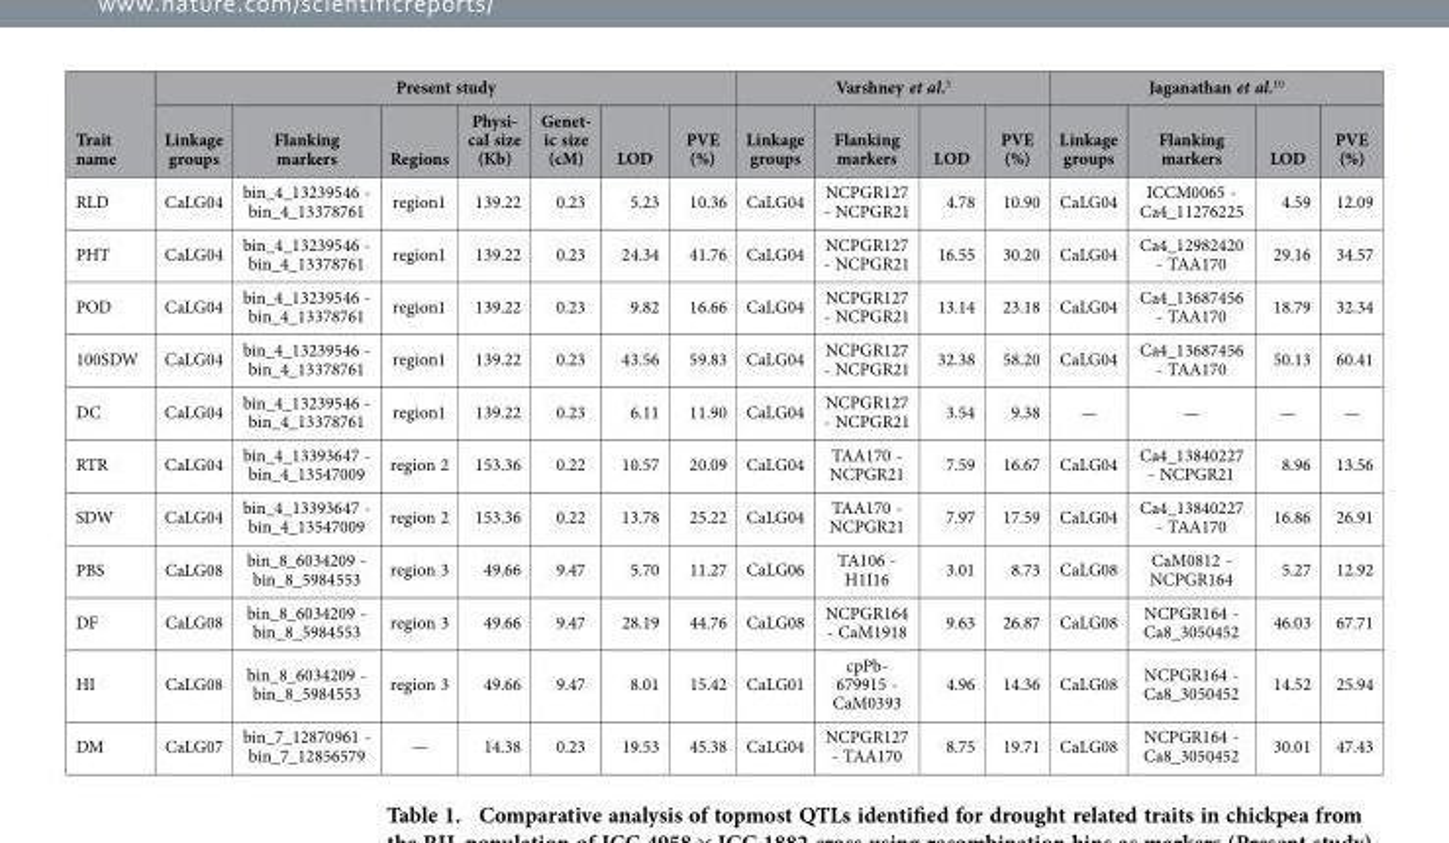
<table><thead><tr><td rowspan="2">Trait name</td><td colspan="7">Present study</td><td colspan="4">Varshney et al.<sup>5</sup></td><td colspan="4">Jaganathan et al.<sup>10</sup></td></tr><tr><td>Linkage groups</td><td>Flanking markers</td><td>Regions</td><td>Physi- cal size (Kb)</td><td>Genet- ic size (cM)</td><td>LOD</td><td>PVE (%)</td><td>Linkage groups</td><td>Flanking markers</td><td>LOD</td><td>PVE (%)</td><td>Linkage groups</td><td>Flanking markers</td><td>LOD</td><td>PVE (%)</td></tr></thead><tbody><tr><td>RLD</td><td>CaLG04</td><td>bin_4_13239546 - bin_4_13378761</td><td>region1</td><td>139.22</td><td>0.23</td><td>5.23</td><td>10.36</td><td>CaLG04</td><td>NCPGR127 - NCPGR21</td><td>4.78</td><td>10.90</td><td>CaLG04</td><td>ICCM0065 - Ca4_11276225</td><td>4.59</td><td>12.09</td></tr><tr><td>PHT</td><td>CaLG04</td><td>bin_4_13239546 - bin_4_13378761</td><td>region1</td><td>139.22</td><td>0.23</td><td>24.34</td><td>41.76</td><td>CaLG04</td><td>NCPGR127 - NCPGR21</td><td>16.55</td><td>30.20</td><td>CaLG04</td><td>Ca4_12982420 - TAA170</td><td>29.16</td><td>34.57</td></tr><tr><td>POD</td><td>CaLG04</td><td>bin_4_13239546 - bin_4_13378761</td><td>region1</td><td>139.22</td><td>0.23</td><td>9.82</td><td>16.66</td><td>CaLG04</td><td>NCPGR127 - NCPGR21</td><td>13.14</td><td>23.18</td><td>CaLG04</td><td>Ca4_13687456 - TAA170</td><td>18.79</td><td>32.34</td></tr><tr><td>100SDW</td><td>CaLG04</td><td>bin_4_13239546 - bin_4_13378761</td><td>region1</td><td>139.22</td><td>0.23</td><td>43.56</td><td>59.83</td><td>CaLG04</td><td>NCPGR127 - NCPGR21</td><td>32.38</td><td>58.20</td><td>CaLG04</td><td>Ca4_13687456 - TAA170</td><td>50.13</td><td>60.41</td></tr><tr><td>DC</td><td>CaLG04</td><td>bin_4_13239546 - bin_4_13378761</td><td>region1</td><td>139.22</td><td>0.23</td><td>6.11</td><td>11.90</td><td>CaLG04</td><td>NCPGR127 - NCPGR21</td><td>3.54</td><td>9.38</td><td>—</td><td>—</td><td>—</td><td>—</td></tr><tr><td>RTR</td><td>CaLG04</td><td>bin_4_13393647 - bin_4_13547009</td><td>region 2</td><td>153.36</td><td>0.22</td><td>10.57</td><td>20.09</td><td>CaLG04</td><td>TAA170 - NCPGR21</td><td>7.59</td><td>16.67</td><td>CaLG04</td><td>Ca4_13840227 - NCPGR21</td><td>8.96</td><td>13.56</td></tr><tr><td>SDW</td><td>CaLG04</td><td>bin_4_13393647 - bin_4_13547009</td><td>region 2</td><td>153.36</td><td>0.22</td><td>13.78</td><td>25.22</td><td>CaLG04</td><td>TAA170 - NCPGR21</td><td>7.97</td><td>17.59</td><td>CaLG04</td><td>Ca4_13840227 - TAA170</td><td>16.86</td><td>26.91</td></tr><tr><td>PBS</td><td>CaLG08</td><td>bin_8_6034209 - bin_8_5984553</td><td>region 3</td><td>49.66</td><td>9.47</td><td>5.70</td><td>11.27</td><td>CaLG06</td><td>TA106 - H1I16</td><td>3.01</td><td>8.73</td><td>CaLG08</td><td>CaM0812 - NCPGR164</td><td>5.27</td><td>12.92</td></tr><tr><td>DF</td><td>CaLG08</td><td>bin_8_6034209 - bin_8_5984553</td><td>region 3</td><td>49.66</td><td>9.47</td><td>28.19</td><td>44.76</td><td>CaLG08</td><td>NCPGR164 - CaM1918</td><td>9.63</td><td>26.87</td><td>CaLG08</td><td>NCPGR164 - Ca8_3050452</td><td>46.03</td><td>67.71</td></tr><tr><td>HI</td><td>CaLG08</td><td>bin_8_6034209 - bin_8_5984553</td><td>region 3</td><td>49.66</td><td>9.47</td><td>8.01</td><td>15.42</td><td>CaLG01</td><td>cpPb- 679915 - CaM0393</td><td>4.96</td><td>14.36</td><td>CaLG08</td><td>NCPGR164 - Ca8_3050452</td><td>14.52</td><td>25.94</td></tr><tr><td>DM</td><td>CaLG07</td><td>bin_7_12870961 - bin_7_12856579</td><td>—</td><td>14.38</td><td>0.23</td><td>19.53</td><td>45.38</td><td>CaLG04</td><td>NCPGR127 - TAA170</td><td>8.75</td><td>19.71</td><td>CaLG08</td><td>NCPGR164 - Ca8_3050452</td><td>30.01</td><td>47.43</td></tr></tbody></table>